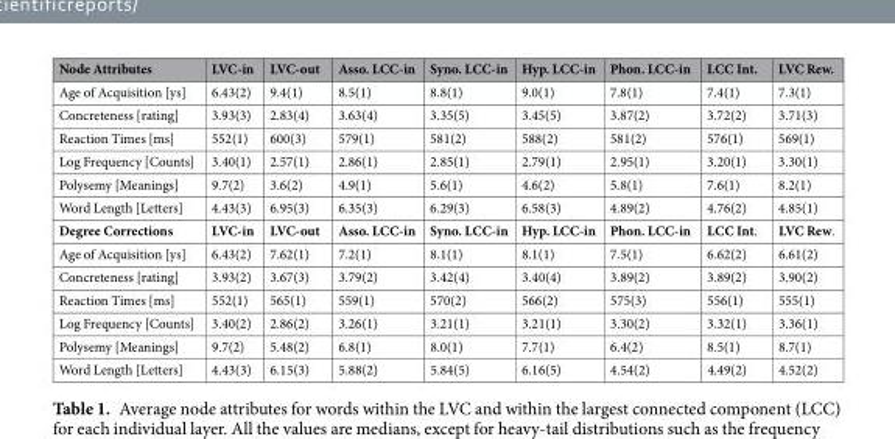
<table><thead><tr><td>Node Attributes</td><td>LVC-in</td><td>LVC-out</td><td>Asso. LCC-in</td><td>Syno. LCC-in</td><td>Hyp. LCC-in</td><td>Phon. LCC-in</td><td>LCC Int.</td><td>LVC Rew.</td></tr></thead><tbody><tr><td>Age of Acquisition [ys]</td><td>6.43(2)</td><td>9.4(1)</td><td>8.5(1)</td><td>8.8(1)</td><td>9.0(1)</td><td>7.8(1)</td><td>7.4(1)</td><td>7.3(1)</td></tr><tr><td>Concreteness [rating]</td><td>3.93(3)</td><td>2.83(4)</td><td>3.63(4)</td><td>3.35(5)</td><td>3.45(5)</td><td>3.87(2)</td><td>3.72(2)</td><td>3.71(3)</td></tr><tr><td>Reaction Times [ms]</td><td>552(1)</td><td>600(3)</td><td>579(1)</td><td>581(2)</td><td>588(2)</td><td>581(2)</td><td>576(1)</td><td>569(1)</td></tr><tr><td>Log Frequency [Counts]</td><td>3.40(1)</td><td>2.57(1)</td><td>2.86(1)</td><td>2.85(1)</td><td>2.79(1)</td><td>2.95(1)</td><td>3.20(1)</td><td>3.30(1)</td></tr><tr><td>Polysemy [Meanings]</td><td>9.7(2)</td><td>3.6(2)</td><td>4.9(1)</td><td>5.6(1)</td><td>4.6(2)</td><td>5.8(1)</td><td>7.6(1)</td><td>8.2(1)</td></tr><tr><td>Word Length [Letters]</td><td>4.43(3)</td><td>6.95(3)</td><td>6.35(3)</td><td>6.29(3)</td><td>6.58(3)</td><td>4.89(2)</td><td>4.76(2)</td><td>4.85(1)</td></tr><tr><td>Degree Corrections</td><td>LVC-in</td><td>LVC-out</td><td>Asso. LCC-in</td><td>Syno. LCC-in</td><td>Hyp. LCC-in</td><td>Phon. LCC-in</td><td>LCC Int.</td><td>LVC Rew.</td></tr><tr><td>Age of Acquisition [ys]</td><td>6.43(2)</td><td>7.62(1)</td><td>7.2(1)</td><td>8.1(1)</td><td>8.1(1)</td><td>7.5(1)</td><td>6.62(2)</td><td>6.61(2)</td></tr><tr><td>Concreteness [rating]</td><td>3.93(2)</td><td>3.67(3)</td><td>3.79(2)</td><td>3.42(4)</td><td>3.40(4)</td><td>3.89(2)</td><td>3.89(2)</td><td>3.90(2)</td></tr><tr><td>Reaction Times [ms]</td><td>552(1)</td><td>565(1)</td><td>559(1)</td><td>570(2)</td><td>566(2)</td><td>575(3)</td><td>556(1)</td><td>555(1)</td></tr><tr><td>Log Frequency [Counts]</td><td>3.40(2)</td><td>2.86(2)</td><td>3.26(1)</td><td>3.21(1)</td><td>3.21(1)</td><td>3.30(2)</td><td>3.32(1)</td><td>3.36(1)</td></tr><tr><td>Polysemy [Meanings]</td><td>9.7(2)</td><td>5.48(2)</td><td>6.8(1)</td><td>8.0(1)</td><td>7.7(1)</td><td>6.4(2)</td><td>8.5(1)</td><td>8.7(1)</td></tr><tr><td>Word Length [Letters]</td><td>4.43(3)</td><td>6.15(3)</td><td>5.88(2)</td><td>5.84(5)</td><td>6.16(5)</td><td>4.54(2)</td><td>4.49(2)</td><td>4.52(2)</td></tr></tbody></table>